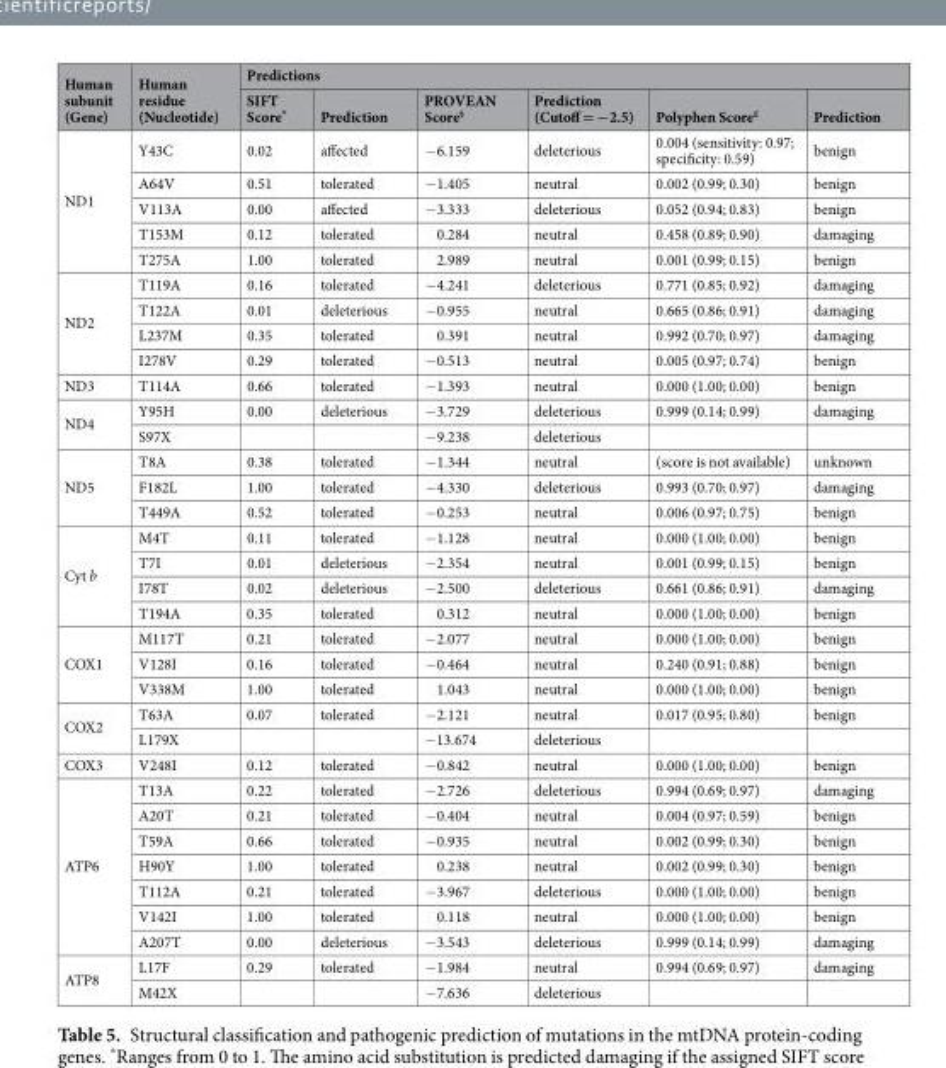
<table><thead><tr><td rowspan="2">Human subunit (Gene)</td><td rowspan="2">Human residue (Nucleotide)</td><td colspan="6">Predictions</td></tr><tr><td>SIFT Score*</td><td>Prediction</td><td>PROVEAN Score<sup>§</sup></td><td>Prediction (Cutoff = −2.5)</td><td>Polyphen Score<sup>£</sup></td><td>Prediction</td></tr></thead><tbody><tr><td rowspan="5">ND1</td><td>Y43C</td><td>0.02</td><td>affected</td><td>−6.159</td><td>deleterious</td><td>0.004 (sensitivity: 0.97; specificity: 0.59)</td><td>benign</td></tr><tr><td>A64V</td><td>0.51</td><td>tolerated</td><td>−1.405</td><td>neutral</td><td>0.002 (0.99; 0.30)</td><td>benign</td></tr><tr><td>V113A</td><td>0.00</td><td>affected</td><td>−3.333</td><td>deleterious</td><td>0.052 (0.94; 0.83)</td><td>benign</td></tr><tr><td>T153M</td><td>0.12</td><td>tolerated</td><td>0.284</td><td>neutral</td><td>0.458 (0.89; 0.90)</td><td>damaging</td></tr><tr><td>T275A</td><td>1.00</td><td>tolerated</td><td>2.989</td><td>neutral</td><td>0.001 (0.99; 0.15)</td><td>benign</td></tr><tr><td rowspan="4">ND2</td><td>T119A</td><td>0.16</td><td>tolerated</td><td>−4.241</td><td>deleterious</td><td>0.771 (0.85; 0.92)</td><td>damaging</td></tr><tr><td>T122A</td><td>0.01</td><td>deleterious</td><td>−0.955</td><td>neutral</td><td>0.665 (0.86; 0.91)</td><td>damaging</td></tr><tr><td>L237M</td><td>0.35</td><td>tolerated</td><td>0.391</td><td>neutral</td><td>0.992 (0.70; 0.97)</td><td>damaging</td></tr><tr><td>I278V</td><td>0.29</td><td>tolerated</td><td>−0.513</td><td>neutral</td><td>0.005 (0.97; 0.74)</td><td>benign</td></tr><tr><td>ND3</td><td>T114A</td><td>0.66</td><td>tolerated</td><td>−1.393</td><td>neutral</td><td>0.000 (1.00; 0.00)</td><td>benign</td></tr><tr><td rowspan="2">ND4</td><td>Y95H</td><td>0.00</td><td>deleterious</td><td>−3.729</td><td>deleterious</td><td>0.999 (0.14; 0.99)</td><td>damaging</td></tr><tr><td>S97X</td><td></td><td></td><td>−9.238</td><td>deleterious</td><td></td><td></td></tr><tr><td rowspan="3">ND5</td><td>T8A</td><td>0.38</td><td>tolerated</td><td>−1.344</td><td>neutral</td><td>(score is not available)</td><td>unknown</td></tr><tr><td>F182L</td><td>1.00</td><td>tolerated</td><td>−4.330</td><td>deleterious</td><td>0.993 (0.70; 0.97)</td><td>damaging</td></tr><tr><td>T449A</td><td>0.52</td><td>tolerated</td><td>−0.253</td><td>neutral</td><td>0.006 (0.97; 0.75)</td><td>benign</td></tr><tr><td rowspan="4">Cyt b</td><td>M4T</td><td>0.11</td><td>tolerated</td><td>−1.128</td><td>neutral</td><td>0.000 (1.00; 0.00)</td><td>benign</td></tr><tr><td>T7I</td><td>0.01</td><td>deleterious</td><td>−2.354</td><td>neutral</td><td>0.001 (0.99; 0.15)</td><td>benign</td></tr><tr><td>I78T</td><td>0.02</td><td>deleterious</td><td>−2.500</td><td>deleterious</td><td>0.661 (0.86; 0.91)</td><td>damaging</td></tr><tr><td>T194A</td><td>0.35</td><td>tolerated</td><td>0.312</td><td>neutral</td><td>0.000 (1.00; 0.00)</td><td>benign</td></tr><tr><td rowspan="3">COX1</td><td>M117T</td><td>0.21</td><td>tolerated</td><td>−2.077</td><td>neutral</td><td>0.000 (1.00; 0.00)</td><td>benign</td></tr><tr><td>V128I</td><td>0.16</td><td>tolerated</td><td>−0.464</td><td>neutral</td><td>0.240 (0.91; 0.88)</td><td>benign</td></tr><tr><td>V338M</td><td>1.00</td><td>tolerated</td><td>1.043</td><td>neutral</td><td>0.000 (1.00; 0.00)</td><td>benign</td></tr><tr><td rowspan="2">COX2</td><td>T63A</td><td>0.07</td><td>tolerated</td><td>−2.121</td><td>neutral</td><td>0.017 (0.95; 0.80)</td><td>benign</td></tr><tr><td>L179X</td><td></td><td></td><td>−13.674</td><td>deleterious</td><td></td><td></td></tr><tr><td>COX3</td><td>V248I</td><td>0.12</td><td>tolerated</td><td>−0.842</td><td>neutral</td><td>0.000 (1.00; 0.00)</td><td>benign</td></tr><tr><td rowspan="7">ATP6</td><td>T13A</td><td>0.22</td><td>tolerated</td><td>−2.726</td><td>deleterious</td><td>0.994 (0.69; 0.97)</td><td>damaging</td></tr><tr><td>A20T</td><td>0.21</td><td>tolerated</td><td>−0.404</td><td>neutral</td><td>0.004 (0.97; 0.59)</td><td>benign</td></tr><tr><td>T59A</td><td>0.66</td><td>tolerated</td><td>−0.935</td><td>neutral</td><td>0.002 (0.99; 0.30)</td><td>benign</td></tr><tr><td>H90Y</td><td>1.00</td><td>tolerated</td><td>0.238</td><td>neutral</td><td>0.002 (0.99; 0.30)</td><td>benign</td></tr><tr><td>T112A</td><td>0.21</td><td>tolerated</td><td>−3.967</td><td>deleterious</td><td>0.000 (1.00; 0.00)</td><td>benign</td></tr><tr><td>V142I</td><td>1.00</td><td>tolerated</td><td>0.118</td><td>neutral</td><td>0.000 (1.00; 0.00)</td><td>benign</td></tr><tr><td>A207T</td><td>0.00</td><td>deleterious</td><td>−3.543</td><td>deleterious</td><td>0.999 (0.14; 0.99)</td><td>damaging</td></tr><tr><td rowspan="2">ATP8</td><td>L17F</td><td>0.29</td><td>tolerated</td><td>−1.984</td><td>neutral</td><td>0.994 (0.69; 0.97)</td><td>damaging</td></tr><tr><td>M42X</td><td></td><td></td><td>−7.636</td><td>deleterious</td><td></td><td></td></tr></tbody></table>